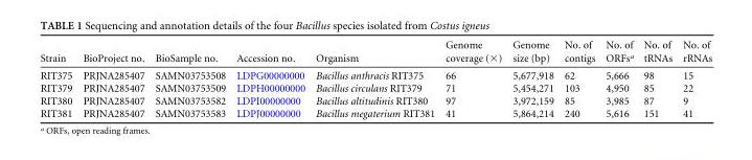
<table><thead><tr><td>Strain</td><td>BioProject no.</td><td>BioSample no.</td><td>Accession no.</td><td>Organism</td><td>Genome coverage (×)</td><td>Genome size (bp)</td><td>No. of contigs</td><td>No. of ORFs<sup>a</sup></td><td>No. of tRNAs</td><td>No. of rRNAs</td></tr></thead><tbody><tr><td>RIT375</td><td>PRJNA285407</td><td>SAMN03753508</td><td>LDPG00000000</td><td>Bacillus anthracis RIT375</td><td>66</td><td>5,677,918</td><td>62</td><td>5,666</td><td>98</td><td>15</td></tr><tr><td>RIT379</td><td>PRJNA285407</td><td>SAMN03753509</td><td>LDPH00000000</td><td>Bacillus circulans RIT379</td><td>71</td><td>5,454,271</td><td>103</td><td>4,950</td><td>85</td><td>22</td></tr><tr><td>RIT380</td><td>PRJNA285407</td><td>SAMN03753582</td><td>LDPI00000000</td><td>Bacillus altitudinis RIT380</td><td>97</td><td>3,972,159</td><td>85</td><td>3,985</td><td>87</td><td>9</td></tr><tr><td>RIT381</td><td>PRJNA285407</td><td>SAMN03753583</td><td>LDPJ00000000</td><td>Bacillus megaterium RIT381</td><td>41</td><td>5,864,214</td><td>240</td><td>5,616</td><td>151</td><td>41</td></tr></tbody></table>